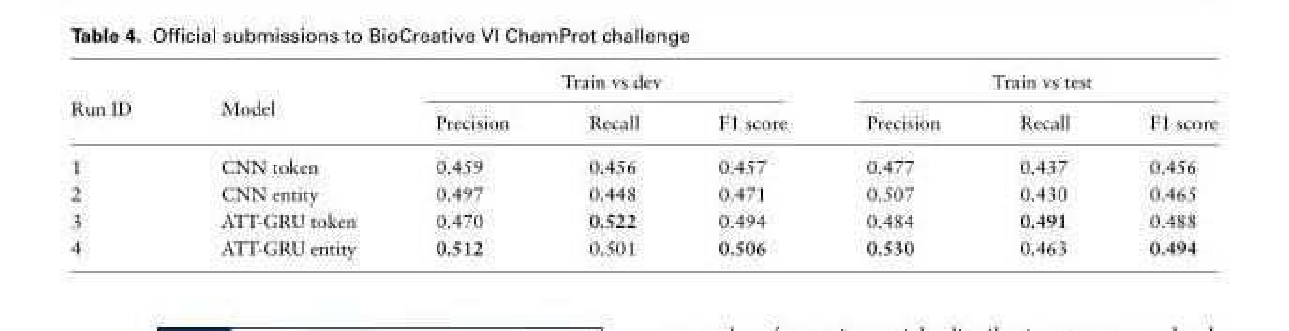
<table><thead><tr><td rowspan="2">Run ID</td><td rowspan="2">Model</td><td colspan="3">Train vs dev</td><td colspan="3">Train vs test</td></tr><tr><td>Precision</td><td>Recall</td><td>F1 score</td><td>Precision</td><td>Recall</td><td>F1 score</td></tr></thead><tbody><tr><td>1</td><td>CNN token</td><td>0.459</td><td>0.456</td><td>0.457</td><td>0.477</td><td>0.437</td><td>0.456</td></tr><tr><td>2</td><td>CNN entity</td><td>0.497</td><td>0.448</td><td>0.471</td><td>0.507</td><td>0.430</td><td>0.465</td></tr><tr><td>3</td><td>ATT-GRU token</td><td>0.470</td><td>0.522</td><td>0.494</td><td>0.484</td><td>0.491</td><td>0.488</td></tr><tr><td>4</td><td>ATT-GRU entity</td><td>0.512</td><td>0.501</td><td>0.506</td><td>0.530</td><td>0.463</td><td>0.494</td></tr></tbody></table>